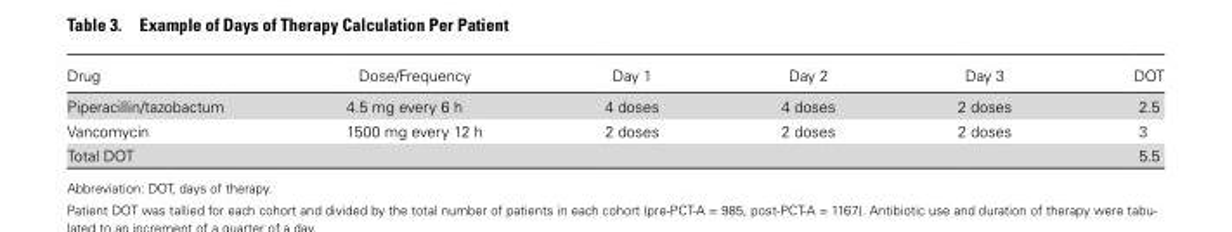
<table><thead><tr><td>Drug</td><td>Dose/Frequency</td><td>Day 1</td><td>Day 2</td><td>Day 3</td><td>DOT</td></tr></thead><tbody><tr><td>Piperacillin/tazobactum</td><td>4.5 mg every 6 h</td><td>4 doses</td><td>4 doses</td><td>2 doses</td><td>2.5</td></tr><tr><td>Vancomycin</td><td>1500 mg every 12 h</td><td>2 doses</td><td>2 doses</td><td>2 doses</td><td>3</td></tr><tr><td>Total DOT</td><td></td><td></td><td></td><td></td><td>5.5</td></tr></tbody></table>